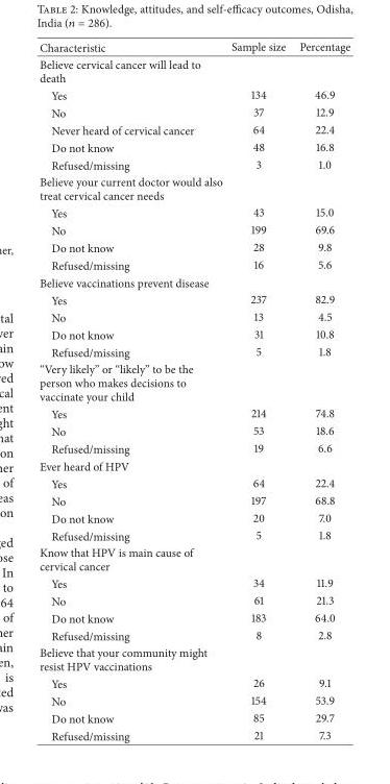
<table><thead><tr><td>Characteristic</td><td>Sample size</td><td>Percentage</td></tr></thead><tbody><tr><td colspan="3">Believe cervical cancer will lead to death</td></tr><tr><td>Yes</td><td>134</td><td>46.9</td></tr><tr><td>No</td><td>37</td><td>12.9</td></tr><tr><td>Never heard of cervical cancer</td><td>64</td><td>22.4</td></tr><tr><td>Do not know</td><td>48</td><td>16.8</td></tr><tr><td>Refused/missing</td><td>3</td><td>1.0</td></tr><tr><td colspan="3">Believe your current doctor would also treat cervical cancer needs</td></tr><tr><td>Yes</td><td>43</td><td>15.0</td></tr><tr><td>No</td><td>199</td><td>69.6</td></tr><tr><td>Do not know</td><td>28</td><td>9.8</td></tr><tr><td>Refused/missing</td><td>16</td><td>5.6</td></tr><tr><td colspan="3">Believe vaccinations prevent disease</td></tr><tr><td>Yes</td><td>237</td><td>82.9</td></tr><tr><td>No</td><td>13</td><td>4.5</td></tr><tr><td>Do not know</td><td>31</td><td>10.8</td></tr><tr><td>Refused/missing</td><td>5</td><td>1.8</td></tr><tr><td colspan="3">“Very likely” or “likely” to be the person who makes decisions to vaccinate your child</td></tr><tr><td>Yes</td><td>214</td><td>74.8</td></tr><tr><td>No</td><td>53</td><td>18.6</td></tr><tr><td>Refused/missing</td><td>19</td><td>6.6</td></tr><tr><td colspan="3">Ever heard of HPV</td></tr><tr><td>Yes</td><td>64</td><td>22.4</td></tr><tr><td>No</td><td>197</td><td>68.8</td></tr><tr><td>Do not know</td><td>20</td><td>7.0</td></tr><tr><td>Refused/missing</td><td>5</td><td>1.8</td></tr><tr><td colspan="3">Know that HPV is main cause of cervical cancer</td></tr><tr><td>Yes</td><td>34</td><td>11.9</td></tr><tr><td>No</td><td>61</td><td>21.3</td></tr><tr><td>Do not know</td><td>183</td><td>64.0</td></tr><tr><td>Refused/missing</td><td>8</td><td>2.8</td></tr><tr><td colspan="3">Believe that your community might resist HPV vaccinations</td></tr><tr><td>Yes</td><td>26</td><td>9.1</td></tr><tr><td>No</td><td>154</td><td>53.9</td></tr><tr><td>Do not know</td><td>85</td><td>29.7</td></tr><tr><td>Refused/missing</td><td>21</td><td>7.3</td></tr></tbody></table>